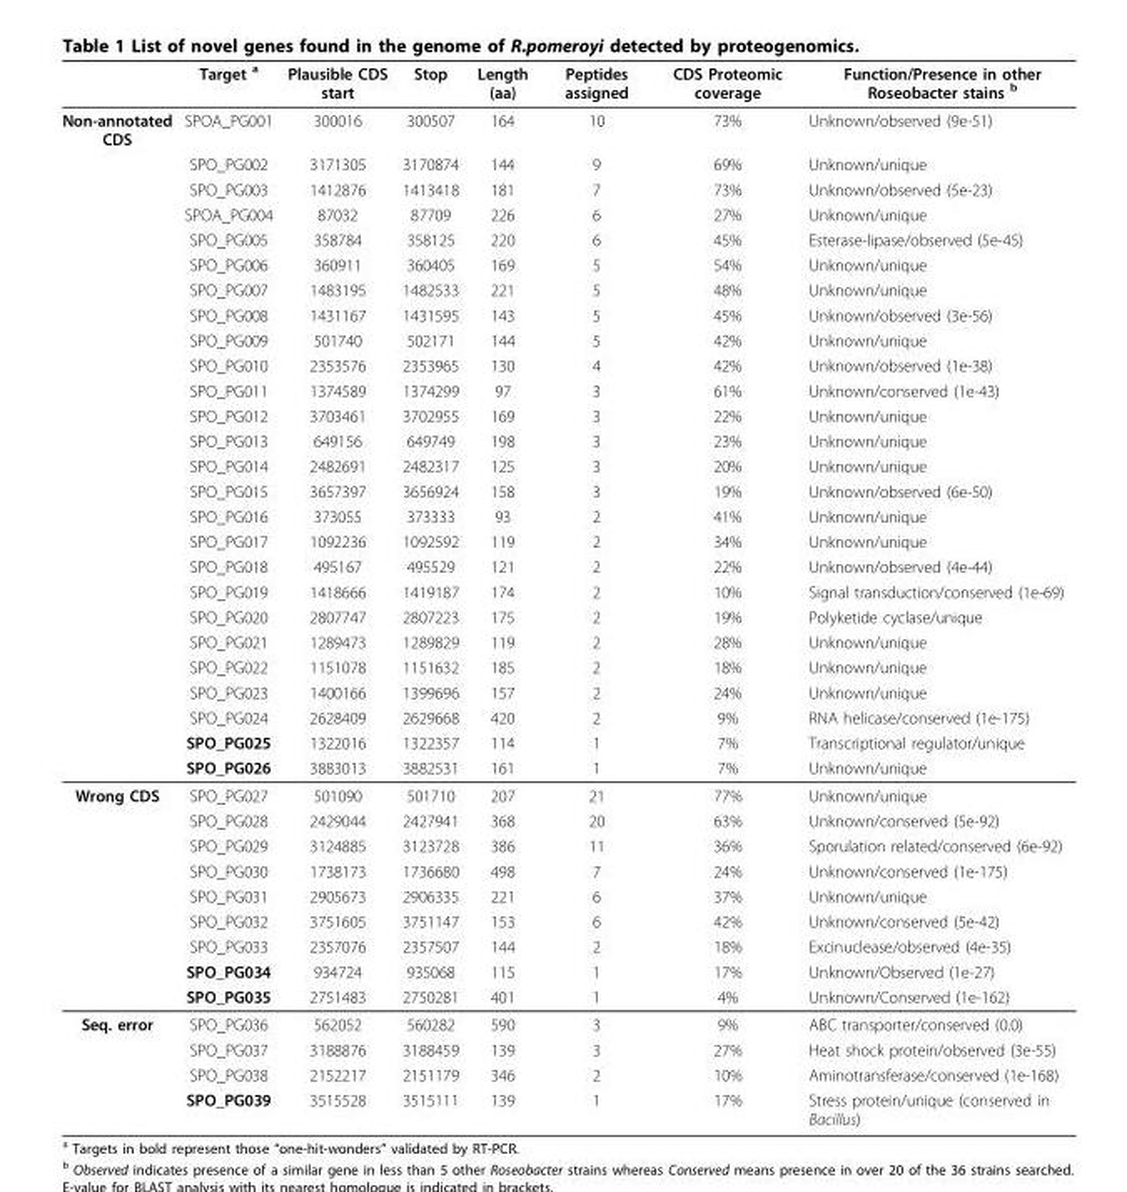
<table><thead><tr><td></td><td>Target <sup>a</sup></td><td>Plausible CDS start</td><td>Stop</td><td>Length (aa)</td><td>Peptides assigned</td><td>CDS Proteomic coverage</td><td>Function/Presence in other Roseobacter stains <sup>b</sup></td></tr></thead><tbody><tr><td rowspan="26">Non-annotated CDS</td><td>SPOA_PG001</td><td>300016</td><td>300507</td><td>164</td><td>10</td><td>73%</td><td>Unknown/observed (9e-51)</td></tr><tr><td>SPO_PG002</td><td>3171305</td><td>3170874</td><td>144</td><td>9</td><td>69%</td><td>Unknown/unique</td></tr><tr><td>SPO_PG003</td><td>1412876</td><td>1413418</td><td>181</td><td>7</td><td>73%</td><td>Unknown/observed (5e-23)</td></tr><tr><td>SPOA_PG004</td><td>87032</td><td>87709</td><td>226</td><td>6</td><td>27%</td><td>Unknown/unique</td></tr><tr><td>SPO_PG005</td><td>358784</td><td>358125</td><td>220</td><td>6</td><td>45%</td><td>Esterase-lipase/observed (5e-45)</td></tr><tr><td>SPO_PG006</td><td>360911</td><td>360405</td><td>169</td><td>5</td><td>54%</td><td>Unknown/unique</td></tr><tr><td>SPO_PG007</td><td>1483195</td><td>1482533</td><td>221</td><td>5</td><td>48%</td><td>Unknown/unique</td></tr><tr><td>SPO_PG008</td><td>1431167</td><td>1431595</td><td>143</td><td>5</td><td>45%</td><td>Unknown/observed (3e-56)</td></tr><tr><td>SPO_PG009</td><td>501740</td><td>502171</td><td>144</td><td>5</td><td>42%</td><td>Unknown/unique</td></tr><tr><td>SPO_PG010</td><td>2353576</td><td>2353965</td><td>130</td><td>4</td><td>42%</td><td>Unknown/observed (1e-38)</td></tr><tr><td>SPO_PG011</td><td>1374589</td><td>1374299</td><td>97</td><td>3</td><td>61%</td><td>Unknown/conserved (1e-43)</td></tr><tr><td>SPO_PG012</td><td>3703461</td><td>3702955</td><td>169</td><td>3</td><td>22%</td><td>Unknown/unique</td></tr><tr><td>SPO_PG013</td><td>649156</td><td>649749</td><td>198</td><td>3</td><td>23%</td><td>Unknown/unique</td></tr><tr><td>SPO_PG014</td><td>2482691</td><td>2482317</td><td>125</td><td>3</td><td>20%</td><td>Unknown/unique</td></tr><tr><td>SPO_PG015</td><td>3657397</td><td>3656924</td><td>158</td><td>3</td><td>19%</td><td>Unknown/observed (6e-50)</td></tr><tr><td>SPO_PG016</td><td>373055</td><td>373333</td><td>93</td><td>2</td><td>41%</td><td>Unknown/unique</td></tr><tr><td>SPO_PG017</td><td>1092236</td><td>1092592</td><td>119</td><td>2</td><td>34%</td><td>Unknown/unique</td></tr><tr><td>SPO_PG018</td><td>495167</td><td>495529</td><td>121</td><td>2</td><td>22%</td><td>Unknown/observed (4e-44)</td></tr><tr><td>SPO_PG019</td><td>1418666</td><td>1419187</td><td>174</td><td>2</td><td>10%</td><td>Signal transduction/conserved (1e-69)</td></tr><tr><td>SPO_PG020</td><td>2807747</td><td>2807223</td><td>175</td><td>2</td><td>19%</td><td>Polyketide cyclase/unique</td></tr><tr><td>SPO_PG021</td><td>1289473</td><td>1289829</td><td>119</td><td>2</td><td>28%</td><td>Unknown/unique</td></tr><tr><td>SPO_PG022</td><td>1151078</td><td>1151632</td><td>185</td><td>2</td><td>18%</td><td>Unknown/unique</td></tr><tr><td>SPO_PG023</td><td>1400166</td><td>1399696</td><td>157</td><td>2</td><td>24%</td><td>Unknown/unique</td></tr><tr><td>SPO_PG024</td><td>2628409</td><td>2629668</td><td>420</td><td>2</td><td>9%</td><td>RNA helicase/conserved (1e-175)</td></tr><tr><td>SPO_PG025</td><td>1322016</td><td>1322357</td><td>114</td><td>1</td><td>7%</td><td>Transcriptional regulator/unique</td></tr><tr><td>SPO_PG026</td><td>3883013</td><td>3882531</td><td>161</td><td>1</td><td>7%</td><td>Unknown/unique</td></tr><tr><td rowspan="9">Wrong CDS</td><td>SPO_PG027</td><td>501090</td><td>501710</td><td>207</td><td>21</td><td>77%</td><td>Unknown/unique</td></tr><tr><td>SPO_PG028</td><td>2429044</td><td>2427941</td><td>368</td><td>20</td><td>63%</td><td>Unknown/conserved (5e-92)</td></tr><tr><td>SPO_PG029</td><td>3124885</td><td>3123728</td><td>386</td><td>11</td><td>36%</td><td>Sporulation related/conserved (6e-92)</td></tr><tr><td>SPO_PG030</td><td>1738173</td><td>1736680</td><td>498</td><td>7</td><td>24%</td><td>Unknown/conserved (1e-175)</td></tr><tr><td>SPO_PG031</td><td>2905673</td><td>2906335</td><td>221</td><td>6</td><td>37%</td><td>Unknown/unique</td></tr><tr><td>SPO_PG032</td><td>3751605</td><td>3751147</td><td>153</td><td>6</td><td>42%</td><td>Unknown/conserved (5e-42)</td></tr><tr><td>SPO_PG033</td><td>2357076</td><td>2357507</td><td>144</td><td>2</td><td>18%</td><td>Excinuclease/observed (4e-35)</td></tr><tr><td>SPO_PG034</td><td>934724</td><td>935068</td><td>115</td><td>1</td><td>17%</td><td>Unknown/Observed (1e-27)</td></tr><tr><td>SPO_PG035</td><td>2751483</td><td>2750281</td><td>401</td><td>1</td><td>4%</td><td>Unknown/Conserved (1e-162)</td></tr><tr><td rowspan="4">Seq. error</td><td>SPO_PG036</td><td>562052</td><td>560282</td><td>590</td><td>3</td><td>9%</td><td>ABC transporter/conserved (0.0)</td></tr><tr><td>SPO_PG037</td><td>3188876</td><td>3188459</td><td>139</td><td>3</td><td>27%</td><td>Heat shock protein/observed (3e-55)</td></tr><tr><td>SPO_PG038</td><td>2152217</td><td>2151179</td><td>346</td><td>2</td><td>10%</td><td>Aminotransferase/conserved (1e-168)</td></tr><tr><td>SPO_PG039</td><td>3515528</td><td>3515111</td><td>139</td><td>1</td><td>17%</td><td>Stress protein/unique (conserved in Bacillus)</td></tr></tbody></table>